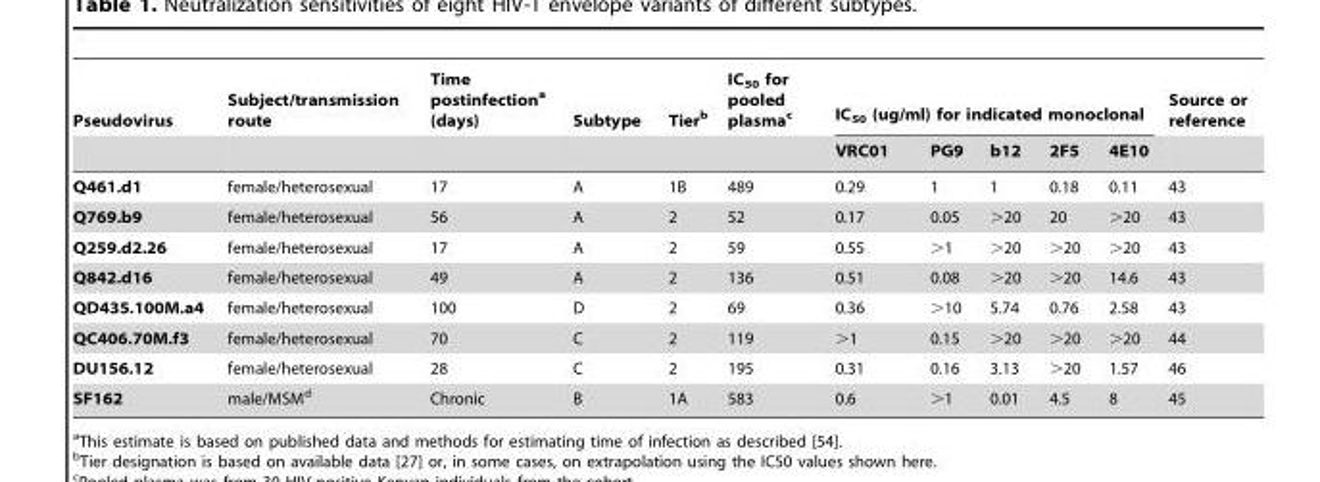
<table><thead><tr><td rowspan="2">Pseudovirus</td><td rowspan="2">Subject/transmission route</td><td rowspan="2">Time postinfection<sup>a</sup> (days)</td><td rowspan="2">Subtype</td><td rowspan="2">Tier<sup>b</sup></td><td rowspan="2">IC<sub>50</sub> for pooled plasma<sup>c</sup></td><td colspan="5">IC<sub>50</sub> (ug/ml) for indicated monoclonal</td><td rowspan="2">Source or reference</td></tr><tr><td>VRC01</td><td>PG9</td><td>b12</td><td>2F5</td><td>4E10</td></tr></thead><tbody><tr><td>Q461.d1</td><td>female/heterosexual</td><td>17</td><td>A</td><td>1B</td><td>489</td><td>0.29</td><td>1</td><td>1</td><td>0.18</td><td>0.11</td><td>43</td></tr><tr><td>Q769.b9</td><td>female/heterosexual</td><td>56</td><td>A</td><td>2</td><td>52</td><td>0.17</td><td>0.05</td><td>&gt;20</td><td>20</td><td>&gt;20</td><td>43</td></tr><tr><td>Q259.d2.26</td><td>female/heterosexual</td><td>17</td><td>A</td><td>2</td><td>59</td><td>0.55</td><td>&gt;1</td><td>&gt;20</td><td>&gt;20</td><td>&gt;20</td><td>43</td></tr><tr><td>Q842.d16</td><td>female/heterosexual</td><td>49</td><td>A</td><td>2</td><td>136</td><td>0.51</td><td>0.08</td><td>&gt;20</td><td>&gt;20</td><td>14.6</td><td>43</td></tr><tr><td>QD435.100M.a4</td><td>female/heterosexual</td><td>100</td><td>D</td><td>2</td><td>69</td><td>0.36</td><td>&gt;10</td><td>5.74</td><td>0.76</td><td>2.58</td><td>43</td></tr><tr><td>QC406.70M.f3</td><td>female/heterosexual</td><td>70</td><td>C</td><td>2</td><td>119</td><td>&gt;1</td><td>0.15</td><td>&gt;20</td><td>&gt;20</td><td>&gt;20</td><td>44</td></tr><tr><td>DU156.12</td><td>female/heterosexual</td><td>28</td><td>C</td><td>2</td><td>195</td><td>0.31</td><td>0.16</td><td>3.13</td><td>&gt;20</td><td>1.57</td><td>46</td></tr><tr><td>SF162</td><td>male/MSM<sup>d</sup></td><td>Chronic</td><td>B</td><td>1A</td><td>583</td><td>0.6</td><td>&gt;1</td><td>0.01</td><td>4.5</td><td>8</td><td>45</td></tr></tbody></table>